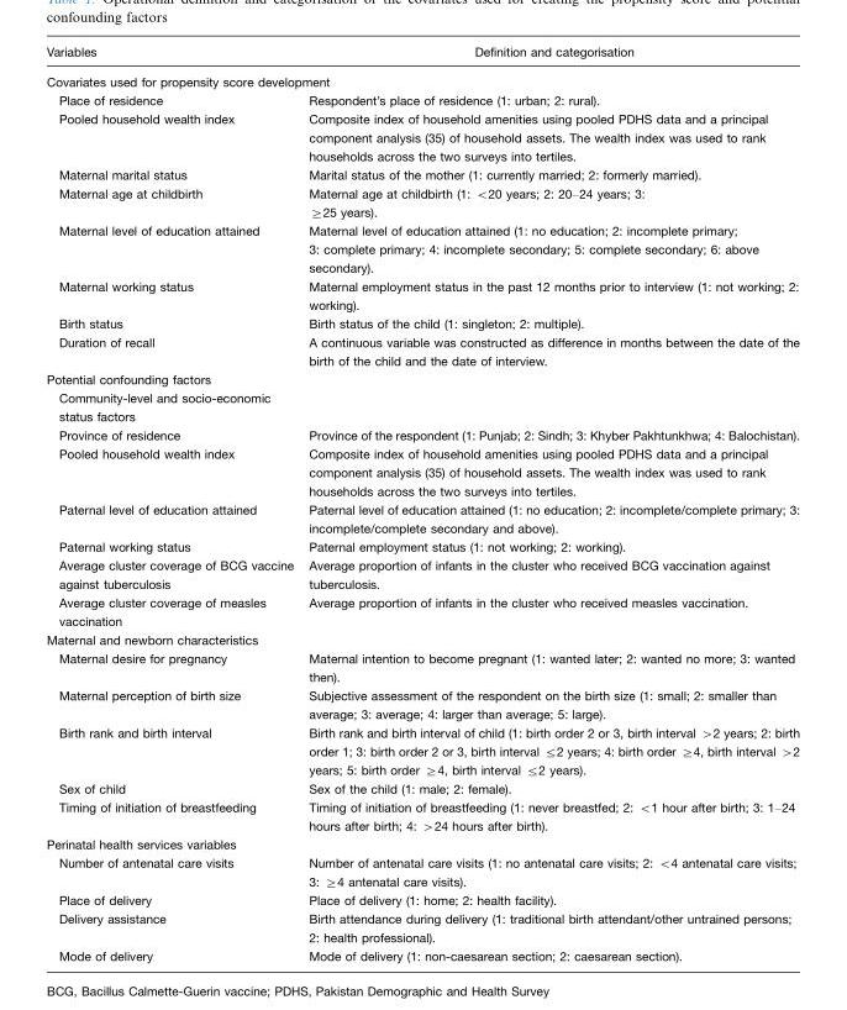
<table><thead><tr><td>Variables</td><td>Definition and categorisation</td></tr></thead><tbody><tr><td colspan="2">Covariates used for propensity score development</td></tr><tr><td>Place of residence</td><td>Respondent’s place of residence (1: urban; 2: rural).</td></tr><tr><td>Pooled household wealth index</td><td>Composite index of household amenities using pooled PDHS data and a principal component analysis (35) of household assets. The wealth index was used to rank households across the two surveys into tertiles.</td></tr><tr><td>Maternal marital status</td><td>Marital status of the mother (1: currently married; 2: formerly married).</td></tr><tr><td>Maternal age at childbirth</td><td>Maternal age at childbirth (1: &lt;20 years; 2: 20–24 years; 3: ≥25 years).</td></tr><tr><td>Maternal level of education attained</td><td>Maternal level of education attained (1: no education; 2: incomplete primary; 3: complete primary; 4: incomplete secondary; 5: complete secondary; 6: above secondary).</td></tr><tr><td>Maternal working status</td><td>Maternal employment status in the past 12 months prior to interview (1: not working; 2: working).</td></tr><tr><td>Birth status</td><td>Birth status of the child (1: singleton; 2: multiple).</td></tr><tr><td>Duration of recall</td><td>A continuous variable was constructed as difference in months between the date of the birth of the child and the date of interview.</td></tr><tr><td colspan="2">Potential confounding factors</td></tr><tr><td colspan="2">Community-level and socio-economic status factors</td></tr><tr><td>Province of residence</td><td>Province of the respondent (1: Punjab; 2: Sindh; 3: Khyber Pakhtunkhwa; 4: Balochistan).</td></tr><tr><td>Pooled household wealth index</td><td>Composite index of household amenities using pooled PDHS data and a principal component analysis (35) of household assets. The wealth index was used to rank households across the two surveys into tertiles.</td></tr><tr><td>Paternal level of education attained</td><td>Paternal level of education attained (1: no education; 2: incomplete/complete primary; 3: incomplete/complete secondary and above).</td></tr><tr><td>Paternal working status</td><td>Paternal employment status (1: not working; 2: working).</td></tr><tr><td>Average cluster coverage of BCG vaccine against tuberculosis</td><td>Average proportion of infants in the cluster who received BCG vaccination against tuberculosis.</td></tr><tr><td>Average cluster coverage of measles vaccination</td><td>Average proportion of infants in the cluster who received measles vaccination.</td></tr><tr><td colspan="2">Maternal and newborn characteristics</td></tr><tr><td>Maternal desire for pregnancy</td><td>Maternal intention to become pregnant (1: wanted later; 2: wanted no more; 3: wanted then).</td></tr><tr><td>Maternal perception of birth size</td><td>Subjective assessment of the respondent on the birth size (1: small; 2: smaller than average; 3: average; 4: larger than average; 5: large).</td></tr><tr><td>Birth rank and birth interval</td><td>Birth rank and birth interval of child (1: birth order 2 or 3, birth interval &gt;2 years; 2: birth order 1; 3: birth order 2 or 3, birth interval ≤2 years; 4: birth order ≥4, birth interval &gt;2 years; 5: birth order ≥4, birth interval ≤2 years).</td></tr><tr><td>Sex of child</td><td>Sex of the child (1: male; 2: female).</td></tr><tr><td>Timing of initiation of breastfeeding</td><td>Timing of initiation of breastfeeding (1: never breastfed; 2: &lt;1 hour after birth; 3: 1–24 hours after birth; 4: &gt;24 hours after birth).</td></tr><tr><td colspan="2">Perinatal health services variables</td></tr><tr><td>Number of antenatal care visits</td><td>Number of antenatal care visits (1: no antenatal care visits; 2: &lt;4 antenatal care visits; 3: ≥4 antenatal care visits).</td></tr><tr><td>Place of delivery</td><td>Place of delivery (1: home; 2: health facility).</td></tr><tr><td>Delivery assistance</td><td>Birth attendance during delivery (1: traditional birth attendant/other untrained persons; 2: health professional).</td></tr><tr><td>Mode of delivery</td><td>Mode of delivery (1: non-caesarean section; 2: caesarean section).</td></tr></tbody></table>